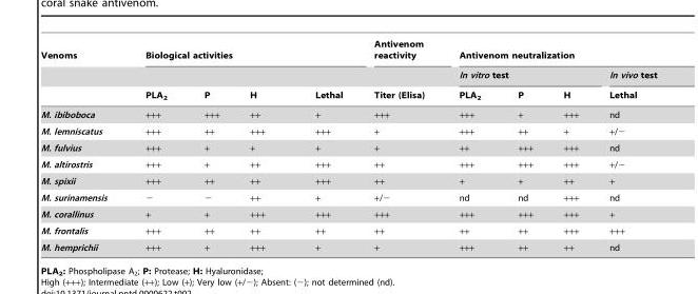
<table><thead><tr><td rowspan="3">Venoms</td><td colspan="4">Biological activities</td><td rowspan="3">Antivenom reactivity Titer (Elisa)</td><td colspan="4">Antivenom neutralization</td></tr><tr><td rowspan="2">PLA<sub>2</sub></td><td rowspan="2">P</td><td rowspan="2">H</td><td rowspan="2">Lethal</td><td colspan="3">In vitro test</td><td rowspan="2">In vivo test Lethal</td></tr><tr><td>PLA<sub>2</sub></td><td>P</td><td>H</td></tr></thead><tbody><tr><td>M. ibiboboca</td><td>+++</td><td>+++</td><td>++</td><td>+</td><td>+++</td><td>+++</td><td>+</td><td>+++</td><td>nd</td></tr><tr><td>M. lemniscatus</td><td>+++</td><td>++</td><td>+++</td><td>+++</td><td>+</td><td>+++</td><td>++</td><td>+</td><td>+/−</td></tr><tr><td>M. fulvius</td><td>+++</td><td>+</td><td>+</td><td>+</td><td>+</td><td>++</td><td>+++</td><td>+++</td><td>nd</td></tr><tr><td>M. altirostris</td><td>+++</td><td>+</td><td>++</td><td>+++</td><td>++</td><td>+++</td><td>+++</td><td>+++</td><td>+/−</td></tr><tr><td>M. spixii</td><td>+++</td><td>++</td><td>++</td><td>+++</td><td>++</td><td>+</td><td>+</td><td>++</td><td>+</td></tr><tr><td>M. surinamensis</td><td>−</td><td>−</td><td>++</td><td>+</td><td>+/−</td><td>nd</td><td>nd</td><td>+++</td><td>nd</td></tr><tr><td>M. corallinus</td><td>+</td><td>+</td><td>+++</td><td>+++</td><td>+++</td><td>+++</td><td>+++</td><td>+++</td><td>+</td></tr><tr><td>M. frontalis</td><td>+++</td><td>++</td><td>++</td><td>++</td><td>++</td><td>++</td><td>++</td><td>+++</td><td>+++</td></tr><tr><td>M. hemprichii</td><td>+++</td><td>+</td><td>+++</td><td>+</td><td>+</td><td>+++</td><td>++</td><td>++</td><td>nd</td></tr></tbody></table>